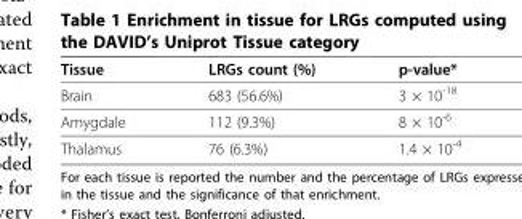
<table><thead><tr><td>Tissue</td><td>LRGs count (%)</td><td>p-value*</td></tr></thead><tbody><tr><td>Brain</td><td>683 (56.6%)</td><td>3 × 10<sup>-18</sup></td></tr><tr><td>Amygdale</td><td>112 (9.3%)</td><td>8 × 10<sup>-6</sup></td></tr><tr><td>Thalamus</td><td>76 (6.3%)</td><td>1.4 × 10<sup>-4</sup></td></tr></tbody></table>